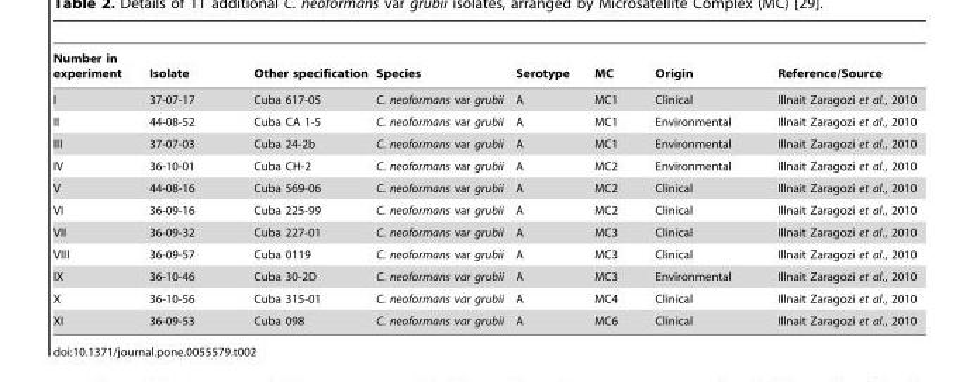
<table><thead><tr><td>Number in experiment</td><td>Isolate</td><td>Other specification</td><td>Species</td><td>Serotype</td><td>MC</td><td>Origin</td><td>Reference/Source</td></tr></thead><tbody><tr><td>I</td><td>37-07-17</td><td>Cuba 617-05</td><td>C. neoformans var grubii</td><td>A</td><td>MC1</td><td>Clinical</td><td>Illnait Zaragozi et al., 2010</td></tr><tr><td>II</td><td>44-08-52</td><td>Cuba CA 1-5</td><td>C. neoformans var grubii</td><td>A</td><td>MC1</td><td>Environmental</td><td>Illnait Zaragozi et al., 2010</td></tr><tr><td>III</td><td>37-07-03</td><td>Cuba 24-2b</td><td>C. neoformans var grubii</td><td>A</td><td>MC1</td><td>Environmental</td><td>Illnait Zaragozi et al., 2010</td></tr><tr><td>IV</td><td>36-10-01</td><td>Cuba CH-2</td><td>C. neoformans var grubii</td><td>A</td><td>MC2</td><td>Environmental</td><td>Illnait Zaragozi et al., 2010</td></tr><tr><td>V</td><td>44-08-16</td><td>Cuba 569-06</td><td>C. neoformans var grubii</td><td>A</td><td>MC2</td><td>Clinical</td><td>Illnait Zaragozi et al., 2010</td></tr><tr><td>VI</td><td>36-09-16</td><td>Cuba 225-99</td><td>C. neoformans var grubii</td><td>A</td><td>MC2</td><td>Clinical</td><td>Illnait Zaragozi et al., 2010</td></tr><tr><td>VII</td><td>36-09-32</td><td>Cuba 227-01</td><td>C. neoformans var grubii</td><td>A</td><td>MC3</td><td>Clinical</td><td>Illnait Zaragozi et al., 2010</td></tr><tr><td>VIII</td><td>36-09-57</td><td>Cuba 0119</td><td>C. neoformans var grubii</td><td>A</td><td>MC3</td><td>Clinical</td><td>Illnait Zaragozi et al., 2010</td></tr><tr><td>IX</td><td>36-10-46</td><td>Cuba 30-2D</td><td>C. neoformans var grubii</td><td>A</td><td>MC3</td><td>Environmental</td><td>Illnait Zaragozi et al., 2010</td></tr><tr><td>X</td><td>36-10-56</td><td>Cuba 315-01</td><td>C. neoformans var grubii</td><td>A</td><td>MC4</td><td>Clinical</td><td>Illnait Zaragozi et al., 2010</td></tr><tr><td>XI</td><td>36-09-53</td><td>Cuba 098</td><td>C. neoformans var grubii</td><td>A</td><td>MC6</td><td>Clinical</td><td>Illnait Zaragozi et al., 2010</td></tr></tbody></table>